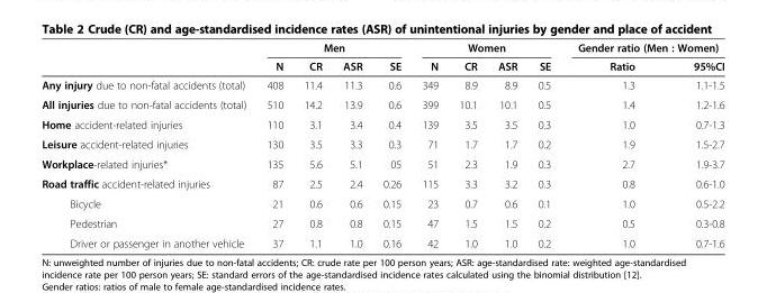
<table><thead><tr><td rowspan="2"></td><td colspan="4">Men</td><td colspan="4">Women</td><td colspan="2">Gender ratio (Men : Women)</td></tr><tr><td>N</td><td>CR</td><td>ASR</td><td>SE</td><td>N</td><td>CR</td><td>ASR</td><td>SE</td><td>Ratio</td><td>95%CI</td></tr></thead><tbody><tr><td>Any injury due to non-fatal accidents (total)</td><td>408</td><td>11.4</td><td>11.3</td><td>0.6</td><td>349</td><td>8.9</td><td>8.9</td><td>0.5</td><td>1.3</td><td>1.1-1.5</td></tr><tr><td>All injuries due to non-fatal accidents (total)</td><td>510</td><td>14.2</td><td>13.9</td><td>0.6</td><td>399</td><td>10.1</td><td>10.1</td><td>0.5</td><td>1.4</td><td>1.2-1.6</td></tr><tr><td>Home accident-related injuries</td><td>110</td><td>3.1</td><td>3.4</td><td>0.4</td><td>139</td><td>3.5</td><td>3.5</td><td>0.3</td><td>1.0</td><td>0.7-1.3</td></tr><tr><td>Leisure accident-related injuries</td><td>130</td><td>3.5</td><td>3.3</td><td>0.3</td><td>71</td><td>1.7</td><td>1.7</td><td>0.2</td><td>1.9</td><td>1.5-2.7</td></tr><tr><td>Workplace-related injuries*</td><td>135</td><td>5.6</td><td>5.1</td><td>05</td><td>51</td><td>2.3</td><td>1.9</td><td>0.3</td><td>2.7</td><td>1.9-3.7</td></tr><tr><td>Road traffic accident-related injuries</td><td>87</td><td>2.5</td><td>2.4</td><td>0.26</td><td>115</td><td>3.3</td><td>3.2</td><td>0.3</td><td>0.8</td><td>0.6-1.0</td></tr><tr><td>Bicycle</td><td>21</td><td>0.6</td><td>0.6</td><td>0.15</td><td>23</td><td>0.7</td><td>0.6</td><td>0.1</td><td>1.0</td><td>0.5-2.2</td></tr><tr><td>Pedestrian</td><td>27</td><td>0.8</td><td>0.8</td><td>0.15</td><td>47</td><td>1.5</td><td>1.5</td><td>0.2</td><td>0.5</td><td>0.3-0.8</td></tr><tr><td>Driver or passenger in another vehicle</td><td>37</td><td>1.1</td><td>1.0</td><td>0.16</td><td>42</td><td>1.0</td><td>1.0</td><td>0.2</td><td>1.0</td><td>0.7-1.6</td></tr></tbody></table>